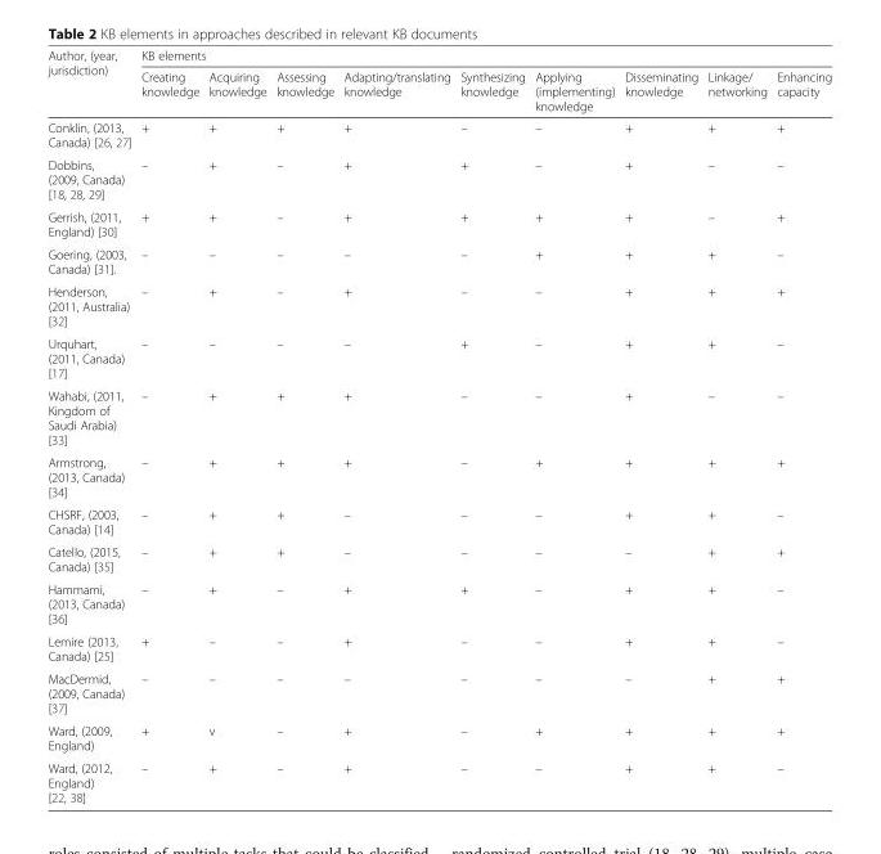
<table><thead><tr><td rowspan="2">Author, (year, jurisdiction)</td><td colspan="9">KB elements</td></tr><tr><td>Creating knowledge</td><td>Acquiring knowledge</td><td>Assessing knowledge</td><td>Adapting/translating knowledge</td><td>Synthesizing knowledge</td><td>Applying (implementing) knowledge</td><td>Disseminating knowledge</td><td>Linkage/ networking</td><td>Enhancing capacity</td></tr></thead><tbody><tr><td>Conklin, (2013, Canada) [26, 27]</td><td>+</td><td>+</td><td>+</td><td>+</td><td>–</td><td>–</td><td>+</td><td>+</td><td>+</td></tr><tr><td>Dobbins, (2009, Canada) [18, 28, 29]</td><td>–</td><td>+</td><td>–</td><td>+</td><td>+</td><td>–</td><td>+</td><td>–</td><td>–</td></tr><tr><td>Gerrish, (2011, England) [30]</td><td>+</td><td>+</td><td>–</td><td>+</td><td>+</td><td>+</td><td>+</td><td>–</td><td>+</td></tr><tr><td>Goering, (2003, Canada) [31].</td><td>–</td><td>–</td><td>–</td><td>–</td><td>–</td><td>+</td><td>+</td><td>+</td><td>–</td></tr><tr><td>Henderson, (2011, Australia) [32]</td><td>–</td><td>+</td><td>–</td><td>+</td><td>–</td><td>–</td><td>+</td><td>+</td><td>+</td></tr><tr><td>Urquhart, (2011, Canada) [17]</td><td>–</td><td>–</td><td>–</td><td>–</td><td>+</td><td>–</td><td>+</td><td>+</td><td>–</td></tr><tr><td>Wahabi, (2011, Kingdom of Saudi Arabia) [33]</td><td>–</td><td>+</td><td>+</td><td>+</td><td>–</td><td>–</td><td>+</td><td>–</td><td>–</td></tr><tr><td>Armstrong, (2013, Canada) [34]</td><td>–</td><td>+</td><td>+</td><td>+</td><td>–</td><td>+</td><td>+</td><td>+</td><td>+</td></tr><tr><td>CHSRF, (2003, Canada) [14]</td><td>–</td><td>+</td><td>+</td><td>–</td><td>–</td><td>–</td><td>+</td><td>+</td><td>–</td></tr><tr><td>Catello, (2015, Canada) [35]</td><td>–</td><td>+</td><td>+</td><td>–</td><td>–</td><td>–</td><td>–</td><td>+</td><td>+</td></tr><tr><td>Hammami, (2013, Canada) [36]</td><td>–</td><td>+</td><td>–</td><td>+</td><td>+</td><td>–</td><td>+</td><td>+</td><td>–</td></tr><tr><td>Lemire (2013, Canada) [25]</td><td>+</td><td>–</td><td>–</td><td>+</td><td>–</td><td>–</td><td>+</td><td>+</td><td>–</td></tr><tr><td>MacDermid, (2009, Canada) [37]</td><td>–</td><td>–</td><td>–</td><td>–</td><td>–</td><td>–</td><td>–</td><td>+</td><td>+</td></tr><tr><td>Ward, (2009, England)</td><td>+</td><td>v</td><td>–</td><td>+</td><td>–</td><td>+</td><td>+</td><td>+</td><td>+</td></tr><tr><td>Ward, (2012, England) [22, 38]</td><td>–</td><td>+</td><td>–</td><td>+</td><td>–</td><td>–</td><td>+</td><td>+</td><td>–</td></tr></tbody></table>